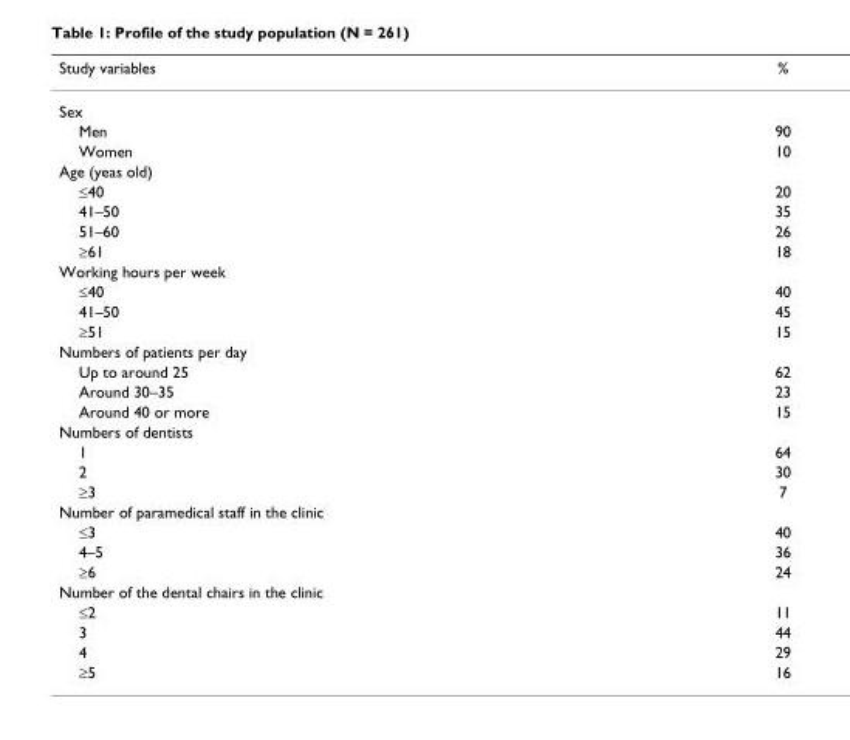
<table><thead><tr><td>Study variables</td><td>%</td></tr></thead><tbody><tr><td colspan="2">Sex</td></tr><tr><td>Men</td><td>90</td></tr><tr><td>Women</td><td>10</td></tr><tr><td colspan="2">Age (yeas old)</td></tr><tr><td>≤40</td><td>20</td></tr><tr><td>41–50</td><td>35</td></tr><tr><td>51–60</td><td>26</td></tr><tr><td>≥61</td><td>18</td></tr><tr><td colspan="2">Working hours per week</td></tr><tr><td>≤40</td><td>40</td></tr><tr><td>41–50</td><td>45</td></tr><tr><td>≥51</td><td>15</td></tr><tr><td colspan="2">Numbers of patients per day</td></tr><tr><td>Up to around 25</td><td>62</td></tr><tr><td>Around 30–35</td><td>23</td></tr><tr><td>Around 40 or more</td><td>15</td></tr><tr><td colspan="2">Numbers of dentists</td></tr><tr><td>1</td><td>64</td></tr><tr><td>2</td><td>30</td></tr><tr><td>≥3</td><td>7</td></tr><tr><td colspan="2">Number of paramedical staff in the clinic</td></tr><tr><td>≤3</td><td>40</td></tr><tr><td>4–5</td><td>36</td></tr><tr><td>≥6</td><td>24</td></tr><tr><td colspan="2">Number of the dental chairs in the clinic</td></tr><tr><td>≤2</td><td>11</td></tr><tr><td>3</td><td>44</td></tr><tr><td>4</td><td>29</td></tr><tr><td>≥5</td><td>16</td></tr></tbody></table>